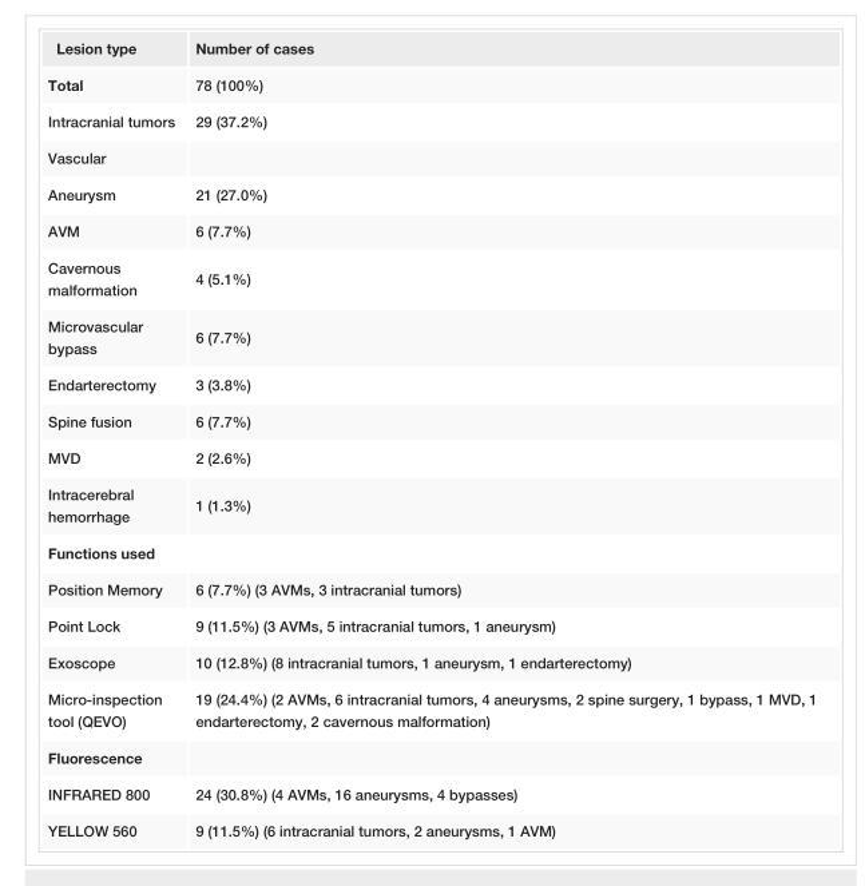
<table><tbody><tr><td>Lesion type</td><td>Number of cases</td></tr><tr><td>Total</td><td>78 (100%)</td></tr><tr><td>Intracranial tumors</td><td>29 (37.2%)</td></tr><tr><td colspan="2">Vascular</td></tr><tr><td>Aneurysm</td><td>21 (27.0%)</td></tr><tr><td>AVM</td><td>6 (7.7%)</td></tr><tr><td>Cavernous malformation</td><td>4 (5.1%)</td></tr><tr><td>Microvascular bypass</td><td>6 (7.7%)</td></tr><tr><td>Endarterectomy</td><td>3 (3.8%)</td></tr><tr><td>Spine fusion</td><td>6 (7.7%)</td></tr><tr><td>MVD</td><td>2 (2.6%)</td></tr><tr><td>Intracerebral hemorrhage</td><td>1 (1.3%)</td></tr><tr><td colspan="2">Functions used</td></tr><tr><td>Position Memory</td><td>6 (7.7%) (3 AVMs, 3 intracranial tumors)</td></tr><tr><td>Point Lock</td><td>9 (11.5%) (3 AVMs, 5 intracranial tumors, 1 aneurysm)</td></tr><tr><td>Exoscope</td><td>10 (12.8%) (8 intracranial tumors, 1 aneurysm, 1 endarterectomy)</td></tr><tr><td>Micro-inspection tool (QEVO)</td><td>19 (24.4%) (2 AVMs, 6 intracranial tumors, 4 aneurysms, 2 spine surgery, 1 bypass, 1 MVD, 1 endarterectomy, 2 cavernous malformation)</td></tr><tr><td colspan="2">Fluorescence</td></tr><tr><td>INFRARED 800</td><td>24 (30.8%) (4 AVMs, 16 aneurysms, 4 bypasses)</td></tr><tr><td>YELLOW 560</td><td>9 (11.5%) (6 intracranial tumors, 2 aneurysms, 1 AVM)</td></tr></tbody></table>